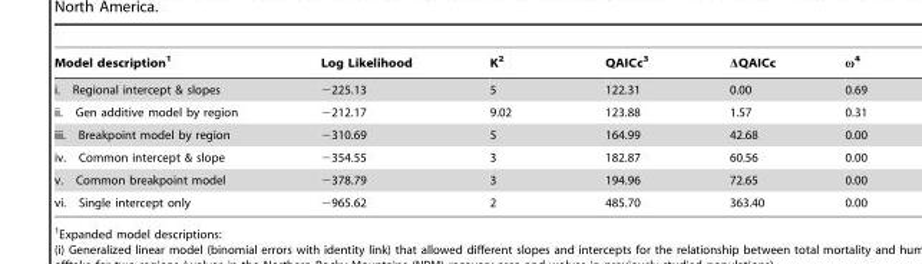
<table><thead><tr><td>Model description<sup>1</sup></td><td>Log Likelihood</td><td>K<sup>2</sup></td><td>QAICc<sup>3</sup></td><td>ΔQAICc</td><td>ω<sup>4</sup></td></tr></thead><tbody><tr><td>i. Regional intercept &amp; slopes</td><td>−225.13</td><td>5</td><td>122.31</td><td>0.00</td><td>0.69</td></tr><tr><td>ii. Gen additive model by region</td><td>−212.17</td><td>9.02</td><td>123.88</td><td>1.57</td><td>0.31</td></tr><tr><td>iii. Breakpoint model by region</td><td>−310.69</td><td>5</td><td>164.99</td><td>42.68</td><td>0.00</td></tr><tr><td>iv. Common intercept &amp; slope</td><td>−354.55</td><td>3</td><td>182.87</td><td>60.56</td><td>0.00</td></tr><tr><td>v. Common breakpoint model</td><td>−378.79</td><td>3</td><td>194.96</td><td>72.65</td><td>0.00</td></tr><tr><td>vi. Single intercept only</td><td>−965.62</td><td>2</td><td>485.70</td><td>363.40</td><td>0.00</td></tr></tbody></table>